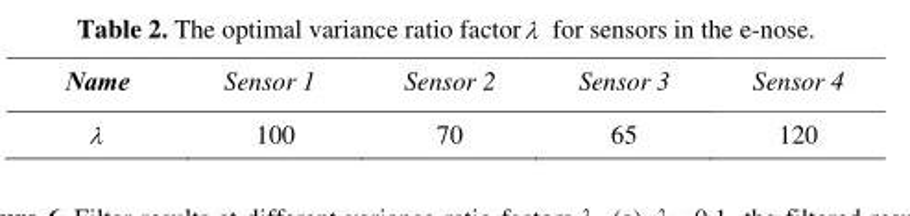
<table><thead><tr><td>Name</td><td>Sensor 1</td><td>Sensor 2</td><td>Sensor 3</td><td>Sensor 4</td></tr></thead><tbody><tr><td>λ</td><td>100</td><td>70</td><td>65</td><td>120</td></tr></tbody></table>